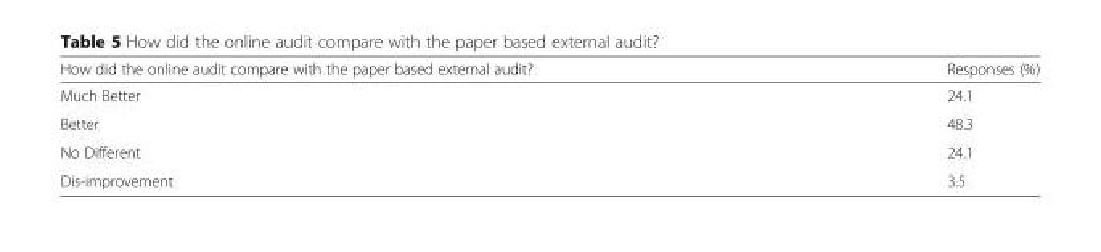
<table><thead><tr><td>How did the online audit compare with the paper based external audit?</td><td>Responses (%)</td></tr></thead><tbody><tr><td>Much Better</td><td>24.1</td></tr><tr><td>Better</td><td>48.3</td></tr><tr><td>No Different</td><td>24.1</td></tr><tr><td>Dis-improvement</td><td>3.5</td></tr></tbody></table>